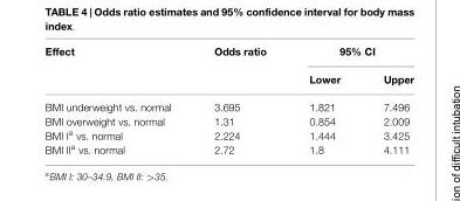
<table><thead><tr><td rowspan="2">Effect</td><td rowspan="2">Odds ratio</td><td colspan="2">95% CI</td></tr><tr><td>Lower</td><td>Upper</td></tr></thead><tbody><tr><td>BMI underweight vs. normal</td><td>3.695</td><td>1.821</td><td>7.496</td></tr><tr><td>BMI overweight vs. normal</td><td>1.31</td><td>0.854</td><td>2.009</td></tr><tr><td>BMI I<sup>a</sup> vs. normal</td><td>2.224</td><td>1.444</td><td>3.425</td></tr><tr><td>BMI II<sup>a</sup> vs. normal</td><td>2.72</td><td>1.8</td><td>4.111</td></tr></tbody></table>